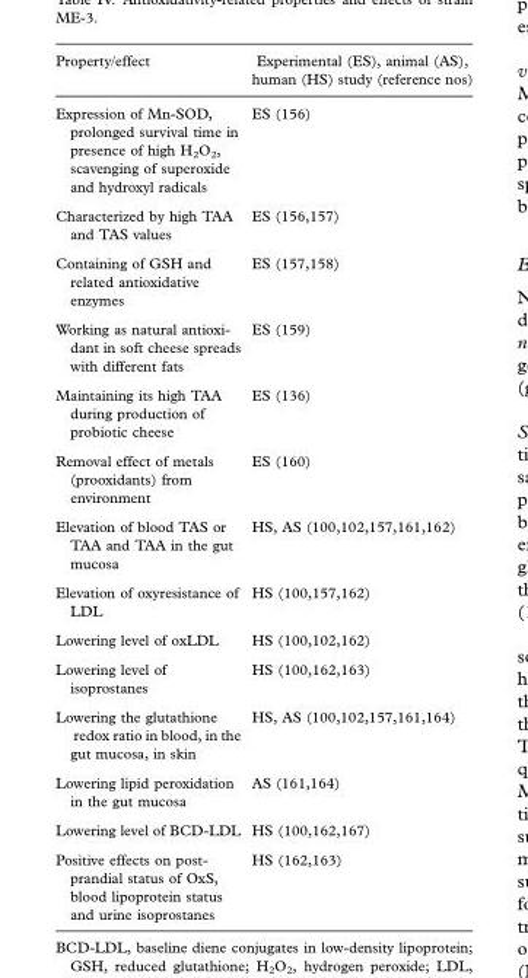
<table><thead><tr><td>Property/effect</td><td>Experimental (ES), animal (AS), human (HS) study (reference nos)</td></tr></thead><tbody><tr><td>Expression of Mn-SOD, prolonged survival time in presence of high H2O2, scavenging of superoxide and hydroxyl radicals</td><td>ES (156)</td></tr><tr><td>Characterized by high TAA and TAS values</td><td>ES (156,157)</td></tr><tr><td>Containing of GSH and related antioxidative enzymes</td><td>ES (157,158)</td></tr><tr><td>Working as natural antioxi- dant in soft cheese spreads with different fats</td><td>ES (159)</td></tr><tr><td>Maintaining its high TAA during production of probiotic cheese</td><td>ES (136)</td></tr><tr><td>Removal effect of metals (prooxidants) from environment</td><td>ES (160)</td></tr><tr><td>Elevation of blood TAS or TAA and TAA in the gut mucosa</td><td>HS, AS (100,102,157,161,162)</td></tr><tr><td>Elevation of oxyresistance of LDL</td><td>HS (100,157,162)</td></tr><tr><td>Lowering level of oxLDL</td><td>HS (100,102,162)</td></tr><tr><td>Lowering level of isoprostanes</td><td>HS (100,162,163)</td></tr><tr><td>Lowering the glutathione redox ratio in blood, in the gut mucosa, in skin</td><td>HS, AS (100,102,157,161,164)</td></tr><tr><td>Lowering lipid peroxidation in the gut mucosa</td><td>AS (161,164)</td></tr><tr><td>Lowering level of BCD-LDL</td><td>HS (100,162,167)</td></tr><tr><td>Positive effects on post- prandial status of OxS, blood lipoprotein status and urine isoprostanes</td><td>HS (162,163)</td></tr></tbody></table>